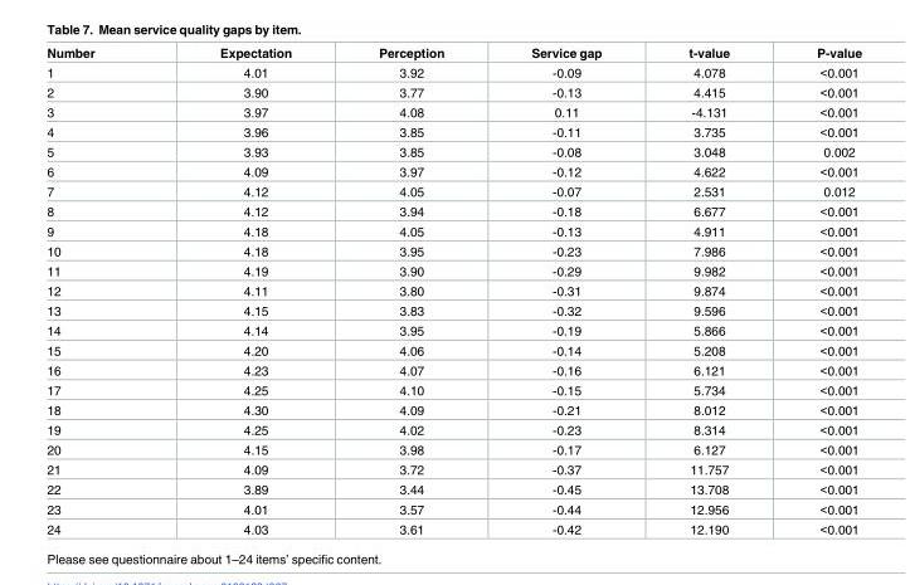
<table><thead><tr><td>Number</td><td>Expectation</td><td>Perception</td><td>Service gap</td><td>t-value</td><td>P-value</td></tr></thead><tbody><tr><td>1</td><td>4.01</td><td>3.92</td><td>-0.09</td><td>4.078</td><td>&lt;0.001</td></tr><tr><td>2</td><td>3.90</td><td>3.77</td><td>-0.13</td><td>4.415</td><td>&lt;0.001</td></tr><tr><td>3</td><td>3.97</td><td>4.08</td><td>0.11</td><td>-4.131</td><td>&lt;0.001</td></tr><tr><td>4</td><td>3.96</td><td>3.85</td><td>-0.11</td><td>3.735</td><td>&lt;0.001</td></tr><tr><td>5</td><td>3.93</td><td>3.85</td><td>-0.08</td><td>3.048</td><td>0.002</td></tr><tr><td>6</td><td>4.09</td><td>3.97</td><td>-0.12</td><td>4.622</td><td>&lt;0.001</td></tr><tr><td>7</td><td>4.12</td><td>4.05</td><td>-0.07</td><td>2.531</td><td>0.012</td></tr><tr><td>8</td><td>4.12</td><td>3.94</td><td>-0.18</td><td>6.677</td><td>&lt;0.001</td></tr><tr><td>9</td><td>4.18</td><td>4.05</td><td>-0.13</td><td>4.911</td><td>&lt;0.001</td></tr><tr><td>10</td><td>4.18</td><td>3.95</td><td>-0.23</td><td>7.986</td><td>&lt;0.001</td></tr><tr><td>11</td><td>4.19</td><td>3.90</td><td>-0.29</td><td>9.982</td><td>&lt;0.001</td></tr><tr><td>12</td><td>4.11</td><td>3.80</td><td>-0.31</td><td>9.874</td><td>&lt;0.001</td></tr><tr><td>13</td><td>4.15</td><td>3.83</td><td>-0.32</td><td>9.596</td><td>&lt;0.001</td></tr><tr><td>14</td><td>4.14</td><td>3.95</td><td>-0.19</td><td>5.866</td><td>&lt;0.001</td></tr><tr><td>15</td><td>4.20</td><td>4.06</td><td>-0.14</td><td>5.208</td><td>&lt;0.001</td></tr><tr><td>16</td><td>4.23</td><td>4.07</td><td>-0.16</td><td>6.121</td><td>&lt;0.001</td></tr><tr><td>17</td><td>4.25</td><td>4.10</td><td>-0.15</td><td>5.734</td><td>&lt;0.001</td></tr><tr><td>18</td><td>4.30</td><td>4.09</td><td>-0.21</td><td>8.012</td><td>&lt;0.001</td></tr><tr><td>19</td><td>4.25</td><td>4.02</td><td>-0.23</td><td>8.314</td><td>&lt;0.001</td></tr><tr><td>20</td><td>4.15</td><td>3.98</td><td>-0.17</td><td>6.127</td><td>&lt;0.001</td></tr><tr><td>21</td><td>4.09</td><td>3.72</td><td>-0.37</td><td>11.757</td><td>&lt;0.001</td></tr><tr><td>22</td><td>3.89</td><td>3.44</td><td>-0.45</td><td>13.708</td><td>&lt;0.001</td></tr><tr><td>23</td><td>4.01</td><td>3.57</td><td>-0.44</td><td>12.956</td><td>&lt;0.001</td></tr><tr><td>24</td><td>4.03</td><td>3.61</td><td>-0.42</td><td>12.190</td><td>&lt;0.001</td></tr></tbody></table>